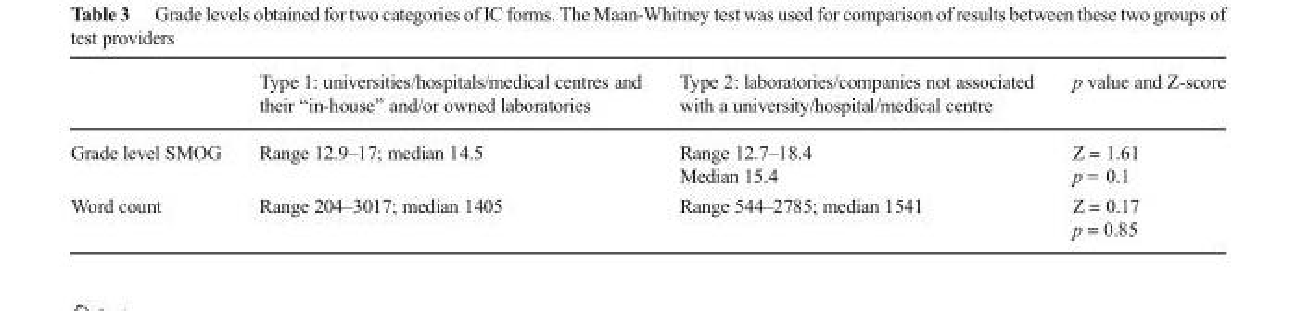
<table><thead><tr><td></td><td>Type 1: universities/hospitals/medical centres and their “in-house” and/or owned laboratories</td><td>Type 2: laboratories/companies not associated with a university/hospital/medical centre</td><td>p value and Z-score</td></tr></thead><tbody><tr><td>Grade level SMOG</td><td>Range 12.9–17; median 14.5</td><td>Range 12.7–18.4 Median 15.4</td><td>Z = 1.61 p = 0.1</td></tr><tr><td>Word count</td><td>Range 204–3017; median 1405</td><td>Range 544–2785; median 1541</td><td>Z = 0.17 p = 0.85</td></tr></tbody></table>